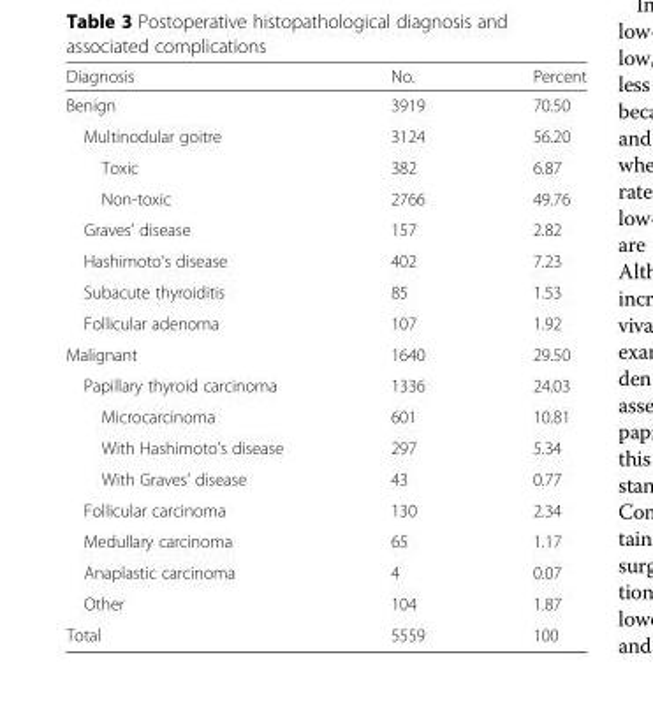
<table><thead><tr><td>Diagnosis</td><td>No.</td><td>Percent</td></tr></thead><tbody><tr><td>Benign</td><td>3919</td><td>70.50</td></tr><tr><td>Multinodular goitre</td><td>3124</td><td>56.20</td></tr><tr><td>Toxic</td><td>382</td><td>6.87</td></tr><tr><td>Non-toxic</td><td>2766</td><td>49.76</td></tr><tr><td>Graves’ disease</td><td>157</td><td>2.82</td></tr><tr><td>Hashimoto’s disease</td><td>402</td><td>7.23</td></tr><tr><td>Subacute thyroiditis</td><td>85</td><td>1.53</td></tr><tr><td>Follicular adenoma</td><td>107</td><td>1.92</td></tr><tr><td>Malignant</td><td>1640</td><td>29.50</td></tr><tr><td>Papillary thyroid carcinoma</td><td>1336</td><td>24.03</td></tr><tr><td>Microcarcinoma</td><td>601</td><td>10.81</td></tr><tr><td>With Hashimoto’s disease</td><td>297</td><td>5.34</td></tr><tr><td>With Graves’ disease</td><td>43</td><td>0.77</td></tr><tr><td>Follicular carcinoma</td><td>130</td><td>2.34</td></tr><tr><td>Medullary carcinoma</td><td>65</td><td>1.17</td></tr><tr><td>Anaplastic carcinoma</td><td>4</td><td>0.07</td></tr><tr><td>Other</td><td>104</td><td>1.87</td></tr><tr><td>Total</td><td>5559</td><td>100</td></tr></tbody></table>